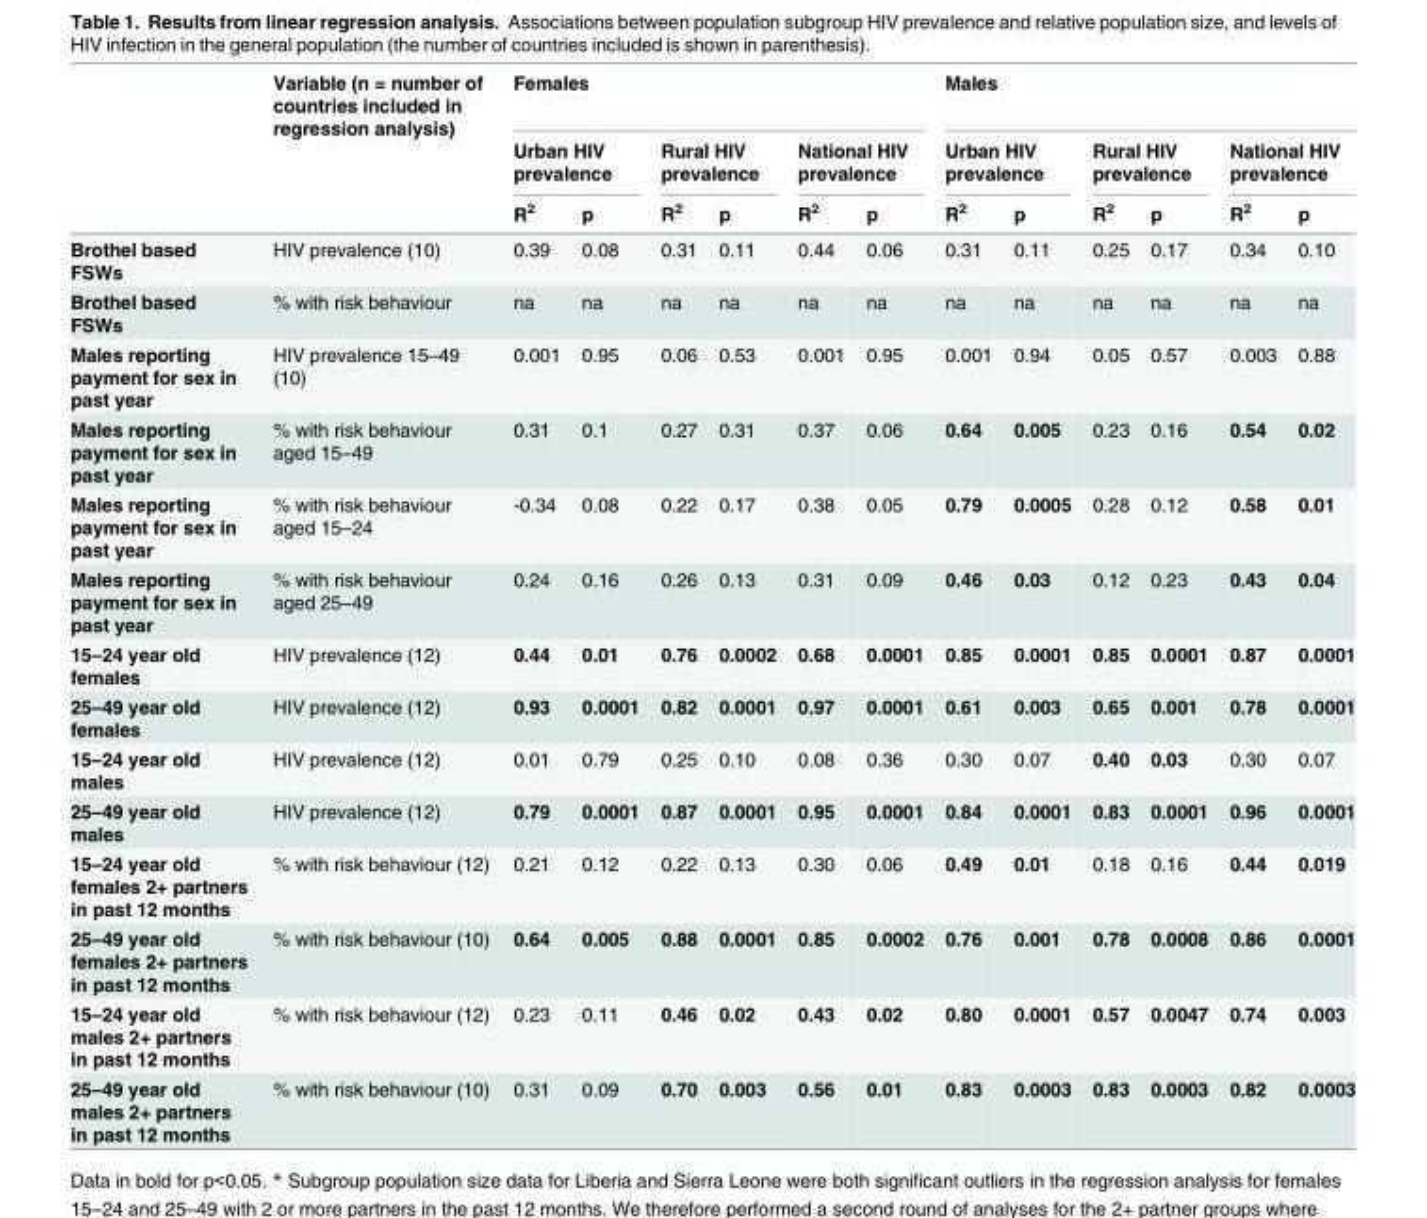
<table><thead><tr><td rowspan="3"></td><td rowspan="3">Variable (n = number of countries included in regression analysis)</td><td colspan="6">Females</td><td colspan="6">Males</td></tr><tr><td colspan="2">Urban HIV prevalence</td><td colspan="2">Rural HIV prevalence</td><td colspan="2">National HIV prevalence</td><td colspan="2">Urban HIV prevalence</td><td colspan="2">Rural HIV prevalence</td><td colspan="2">National HIV prevalence</td></tr><tr><td>R<sup>2</sup></td><td>p</td><td>R<sup>2</sup></td><td>p</td><td>R<sup>2</sup></td><td>p</td><td>R<sup>2</sup></td><td>p</td><td>R<sup>2</sup></td><td>p</td><td>R<sup>2</sup></td><td>p</td></tr></thead><tbody><tr><td>Brothel based FSWs</td><td>HIV prevalence (10)</td><td>0.39</td><td>0.08</td><td>0.31</td><td>0.11</td><td>0.44</td><td>0.06</td><td>0.31</td><td>0.11</td><td>0.25</td><td>0.17</td><td>0.34</td><td>0.10</td></tr><tr><td>Brothel based FSWs</td><td>% with risk behaviour</td><td>na</td><td>na</td><td>na</td><td>na</td><td>na</td><td>na</td><td>na</td><td>na</td><td>na</td><td>na</td><td>na</td><td>na</td></tr><tr><td>Males reporting payment for sex in past year</td><td>HIV prevalence 15–49 (10)</td><td>0.001</td><td>0.95</td><td>0.06</td><td>0.53</td><td>0.001</td><td>0.95</td><td>0.001</td><td>0.94</td><td>0.05</td><td>0.57</td><td>0.003</td><td>0.88</td></tr><tr><td>Males reporting payment for sex in past year</td><td>% with risk behaviour aged 15–49</td><td>0.31</td><td>0.1</td><td>0.27</td><td>0.31</td><td>0.37</td><td>0.06</td><td>0.64</td><td>0.005</td><td>0.23</td><td>0.16</td><td>0.54</td><td>0.02</td></tr><tr><td>Males reporting payment for sex in past year</td><td>% with risk behaviour aged 15–24</td><td>-0.34</td><td>0.08</td><td>0.22</td><td>0.17</td><td>0.38</td><td>0.05</td><td>0.79</td><td>0.0005</td><td>0.28</td><td>0.12</td><td>0.58</td><td>0.01</td></tr><tr><td>Males reporting payment for sex in past year</td><td>% with risk behaviour aged 25–49</td><td>0.24</td><td>0.16</td><td>0.26</td><td>0.13</td><td>0.31</td><td>0.09</td><td>0.46</td><td>0.03</td><td>0.12</td><td>0.23</td><td>0.43</td><td>0.04</td></tr><tr><td>15–24 year old females</td><td>HIV prevalence (12)</td><td>0.44</td><td>0.01</td><td>0.76</td><td>0.0002</td><td>0.68</td><td>0.0001</td><td>0.85</td><td>0.0001</td><td>0.85</td><td>0.0001</td><td>0.87</td><td>0.0001</td></tr><tr><td>25–49 year old females</td><td>HIV prevalence (12)</td><td>0.93</td><td>0.0001</td><td>0.82</td><td>0.0001</td><td>0.97</td><td>0.0001</td><td>0.61</td><td>0.003</td><td>0.65</td><td>0.001</td><td>0.78</td><td>0.0001</td></tr><tr><td>15–24 year old males</td><td>HIV prevalence (12)</td><td>0.01</td><td>0.79</td><td>0.25</td><td>0.10</td><td>0.08</td><td>0.36</td><td>0.30</td><td>0.07</td><td>0.40</td><td>0.03</td><td>0.30</td><td>0.07</td></tr><tr><td>25–49 year old males</td><td>HIV prevalence (12)</td><td>0.79</td><td>0.0001</td><td>0.87</td><td>0.0001</td><td>0.95</td><td>0.0001</td><td>0.84</td><td>0.0001</td><td>0.83</td><td>0.0001</td><td>0.96</td><td>0.0001</td></tr><tr><td>15–24 year old females 2+ partners in past 12 months</td><td>% with risk behaviour (12)</td><td>0.21</td><td>0.12</td><td>0.22</td><td>0.13</td><td>0.30</td><td>0.06</td><td>0.49</td><td>0.01</td><td>0.18</td><td>0.16</td><td>0.44</td><td>0.019</td></tr><tr><td>25–49 year old females 2+ partners in past 12 months</td><td>% with risk behaviour (10)</td><td>0.64</td><td>0.005</td><td>0.88</td><td>0.0001</td><td>0.85</td><td>0.0002</td><td>0.76</td><td>0.001</td><td>0.78</td><td>0.0008</td><td>0.86</td><td>0.0001</td></tr><tr><td>15–24 year old males 2+ partners in past 12 months</td><td>% with risk behaviour (12)</td><td>0.23</td><td>0.11</td><td>0.46</td><td>0.02</td><td>0.43</td><td>0.02</td><td>0.80</td><td>0.0001</td><td>0.57</td><td>0.0047</td><td>0.74</td><td>0.003</td></tr><tr><td>25–49 year old males 2+ partners in past 12 months</td><td>% with risk behaviour (10)</td><td>0.31</td><td>0.09</td><td>0.70</td><td>0.003</td><td>0.56</td><td>0.01</td><td>0.83</td><td>0.0003</td><td>0.83</td><td>0.0003</td><td>0.82</td><td>0.0003</td></tr></tbody></table>